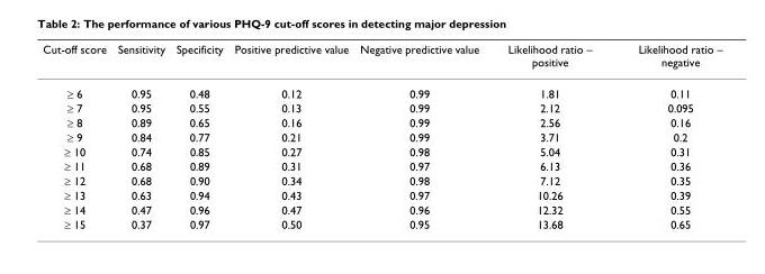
<table><thead><tr><td>Cut-off score</td><td>Sensitivity</td><td>Specificity</td><td>Positive predictive value</td><td>Negative predictive value</td><td>Likelihood ratio – positive</td><td>Likelihood ratio – negative</td></tr></thead><tbody><tr><td>≥ 6</td><td>0.95</td><td>0.48</td><td>0.12</td><td>0.99</td><td>1.81</td><td>0.11</td></tr><tr><td>≥ 7</td><td>0.95</td><td>0.55</td><td>0.13</td><td>0.99</td><td>2.12</td><td>0.095</td></tr><tr><td>≥ 8</td><td>0.89</td><td>0.65</td><td>0.16</td><td>0.99</td><td>2.56</td><td>0.16</td></tr><tr><td>≥ 9</td><td>0.84</td><td>0.77</td><td>0.21</td><td>0.99</td><td>3.71</td><td>0.2</td></tr><tr><td>≥ 10</td><td>0.74</td><td>0.85</td><td>0.27</td><td>0.98</td><td>5.04</td><td>0.31</td></tr><tr><td>≥ 11</td><td>0.68</td><td>0.89</td><td>0.31</td><td>0.97</td><td>6.13</td><td>0.36</td></tr><tr><td>≥ 12</td><td>0.68</td><td>0.90</td><td>0.34</td><td>0.98</td><td>7.12</td><td>0.35</td></tr><tr><td>≥ 13</td><td>0.63</td><td>0.94</td><td>0.43</td><td>0.97</td><td>10.26</td><td>0.39</td></tr><tr><td>≥ 14</td><td>0.47</td><td>0.96</td><td>0.47</td><td>0.96</td><td>12.32</td><td>0.55</td></tr><tr><td>≥ 15</td><td>0.37</td><td>0.97</td><td>0.50</td><td>0.95</td><td>13.68</td><td>0.65</td></tr></tbody></table>